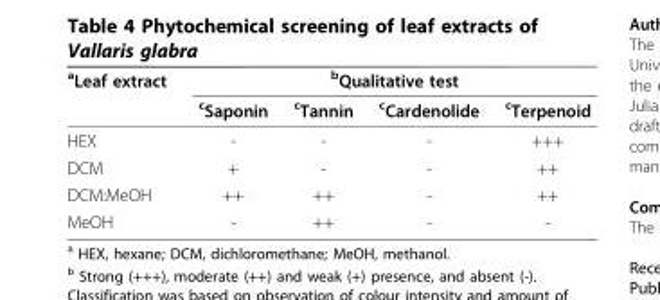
<table><thead><tr><td rowspan="2"><sup>a</sup>Leaf extract</td><td colspan="4"><sup>b</sup>Qualitative test</td></tr><tr><td><sup>c</sup>Saponin</td><td><sup>c</sup>Tannin</td><td><sup>c</sup>Cardenolide</td><td><sup>c</sup>Terpenoid</td></tr></thead><tbody><tr><td>HEX</td><td>-</td><td>-</td><td>-</td><td>+++</td></tr><tr><td>DCM</td><td>+</td><td>-</td><td>-</td><td>++</td></tr><tr><td>DCM:MeOH</td><td>++</td><td>++</td><td>-</td><td>++</td></tr><tr><td>MeOH</td><td>-</td><td>++</td><td>-</td><td>-</td></tr></tbody></table>